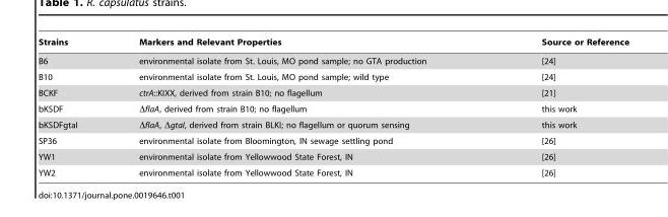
<table><thead><tr><td>Strains</td><td>Markers and Relevant Properties</td><td>Source or Reference</td></tr></thead><tbody><tr><td>B6</td><td>environmental isolate from St. Louis, MO pond sample; no GTA production</td><td>[24]</td></tr><tr><td>B10</td><td>environmental isolate from St. Louis, MO pond sample; wild type</td><td>[24]</td></tr><tr><td>BCKF</td><td>ctrA::KIXX, derived from strain B10; no flagellum</td><td>[21]</td></tr><tr><td>bKSDF</td><td>ΔflaA, derived from strain B10; no flagellum</td><td>this work</td></tr><tr><td>bKSDFgtaI</td><td>ΔflaA, ΔgtaI, derived from strain BLKI; no flagellum or quorum sensing</td><td>this work</td></tr><tr><td>SP36</td><td>environmental isolate from Bloomington, IN sewage settling pond</td><td>[26]</td></tr><tr><td>YW1</td><td>environmental isolate from Yellowwood State Forest, IN</td><td>[26]</td></tr><tr><td>YW2</td><td>environmental isolate from Yellowwood State Forest, IN</td><td>[26]</td></tr></tbody></table>